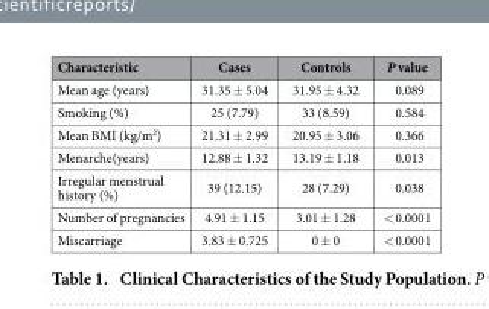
<table><thead><tr><td>Characteristic</td><td>Cases</td><td>Controls</td><td>P value</td></tr></thead><tbody><tr><td>Mean age (years)</td><td>31.35 ± 5.04</td><td>31.95 ± 4.32</td><td>0.089</td></tr><tr><td>Smoking (%)</td><td>25 (7.79)</td><td>33 (8.59)</td><td>0.584</td></tr><tr><td>Mean BMI (kg/m<sup>2</sup>)</td><td>21.31 ± 2.99</td><td>20.95 ± 3.06</td><td>0.366</td></tr><tr><td>Menarche(years)</td><td>12.88 ± 1.32</td><td>13.19 ± 1.18</td><td>0.013</td></tr><tr><td>Irregular menstrual history (%)</td><td>39 (12.15)</td><td>28 (7.29)</td><td>0.038</td></tr><tr><td>Number of pregnancies</td><td>4.91 ± 1.15</td><td>3.01 ± 1.28</td><td>&lt; 0.0001</td></tr><tr><td>Miscarriage</td><td>3.83 ± 0.725</td><td>0 ± 0</td><td>&lt; 0.0001</td></tr></tbody></table>